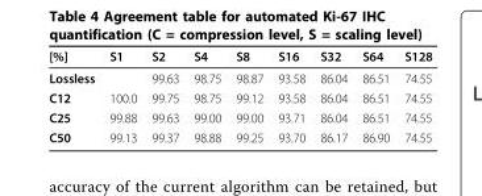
<table><thead><tr><td>[%]</td><td>S1</td><td>S2</td><td>S4</td><td>S8</td><td>S16</td><td>S32</td><td>S64</td><td>S128</td></tr></thead><tbody><tr><td>Lossless</td><td></td><td>99.63</td><td>98.75</td><td>98.87</td><td>93.58</td><td>86.04</td><td>86.51</td><td>74.55</td></tr><tr><td>C12</td><td>100.0</td><td>99.75</td><td>98.75</td><td>99.12</td><td>93.58</td><td>86.04</td><td>86.51</td><td>74.55</td></tr><tr><td>C25</td><td>99.88</td><td>99.63</td><td>99.00</td><td>99.00</td><td>93.71</td><td>86.04</td><td>86.51</td><td>74.55</td></tr><tr><td>C50</td><td>99.13</td><td>99.37</td><td>98.88</td><td>99.25</td><td>93.70</td><td>86.17</td><td>86.90</td><td>74.55</td></tr></tbody></table>